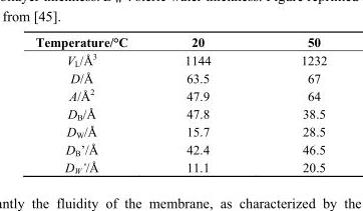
<table><thead><tr><td>Temperature/°C</td><td>20</td><td>50</td></tr></thead><tbody><tr><td>V<sub>L</sub>/Å<sup>3</sup></td><td>1144</td><td>1232</td></tr><tr><td>D/Å</td><td>63.5</td><td>67</td></tr><tr><td>A/Å<sup>2</sup></td><td>47.9</td><td>64</td></tr><tr><td>D<sub>B</sub>/Å</td><td>47.8</td><td>38.5</td></tr><tr><td>D<sub>W</sub>/Å</td><td>15.7</td><td>28.5</td></tr><tr><td>D<sub>B</sub>’/Å</td><td>42.4</td><td>46.5</td></tr><tr><td>D<sub>W</sub>’/Å</td><td>11.1</td><td>20.5</td></tr></tbody></table>